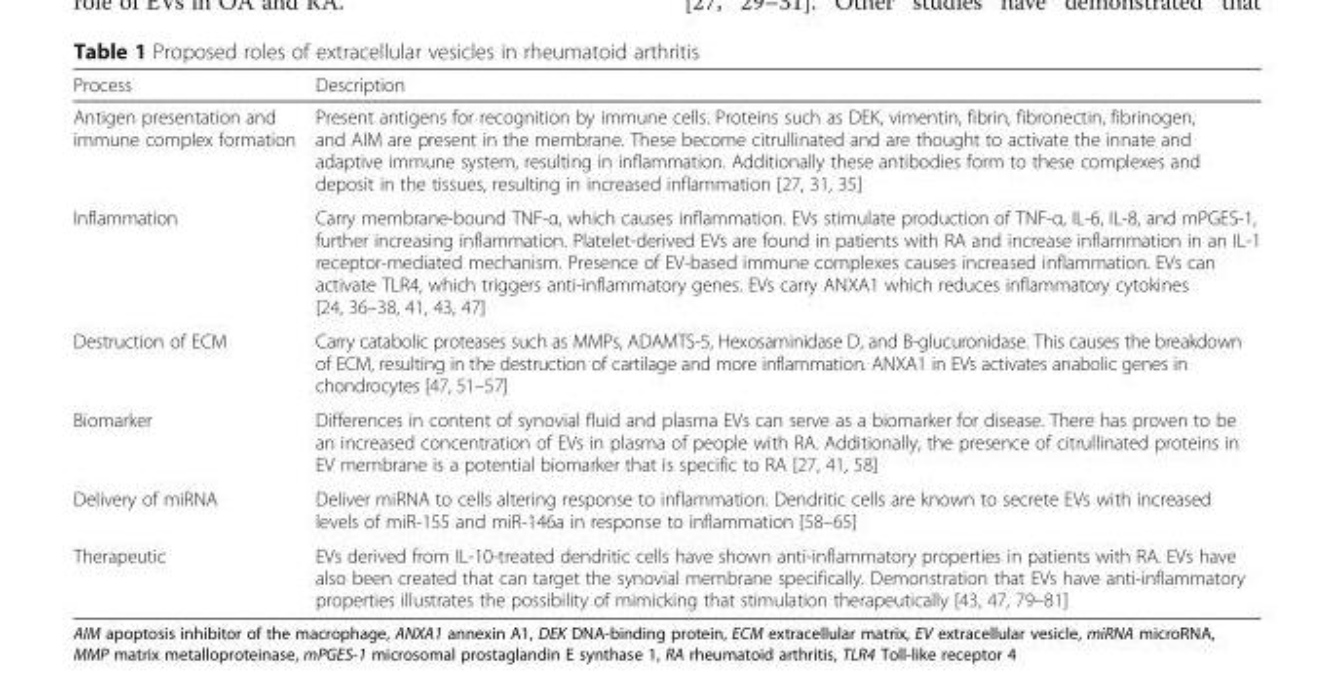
<table><thead><tr><td>Process</td><td>Description</td></tr></thead><tbody><tr><td>Antigen presentation and immune complex formation</td><td>Present antigens for recognition by immune cells. Proteins such as DEK, vimentin, fibrin, fibronectin, fibrinogen, and AIM are present in the membrane. These become citrullinated and are thought to activate the innate and adaptive immune system, resulting in inflammation. Additionally these antibodies form to these complexes and deposit in the tissues, resulting in increased inflammation [27, 31, 35]</td></tr><tr><td>Inflammation</td><td>Carry membrane-bound TNF-α, which causes inflammation. EVs stimulate production of TNF-α, IL-6, IL-8, and mPGES-1, further increasing inflammation. Platelet-derived EVs are found in patients with RA and increase inflammation in an IL-1 receptor-mediated mechanism. Presence of EV-based immune complexes causes increased inflammation. EVs can activate TLR4, which triggers anti-inflammatory genes. EVs carry ANXA1 which reduces inflammatory cytokines [24, 36–38, 41, 43, 47]</td></tr><tr><td>Destruction of ECM</td><td>Carry catabolic proteases such as MMPs, ADAMTS-5, Hexosaminidase D, and B-glucuronidase. This causes the breakdown of ECM, resulting in the destruction of cartilage and more inflammation. ANXA1 in EVs activates anabolic genes in chondrocytes [47, 51–57]</td></tr><tr><td>Biomarker</td><td>Differences in content of synovial fluid and plasma EVs can serve as a biomarker for disease. There has proven to be an increased concentration of EVs in plasma of people with RA. Additionally, the presence of citrullinated proteins in EV membrane is a potential biomarker that is specific to RA [27, 41, 58]</td></tr><tr><td>Delivery of miRNA</td><td>Deliver miRNA to cells altering response to inflammation. Dendritic cells are known to secrete EVs with increased levels of miR-155 and miR-146a in response to inflammation [58–65]</td></tr><tr><td>Therapeutic</td><td>EVs derived from IL-10-treated dendritic cells have shown anti-inflammatory properties in patients with RA. EVs have also been created that can target the synovial membrane specifically. Demonstration that EVs have anti-inflammatory properties illustrates the possibility of mimicking that stimulation therapeutically [43, 47, 79–81]</td></tr></tbody></table>